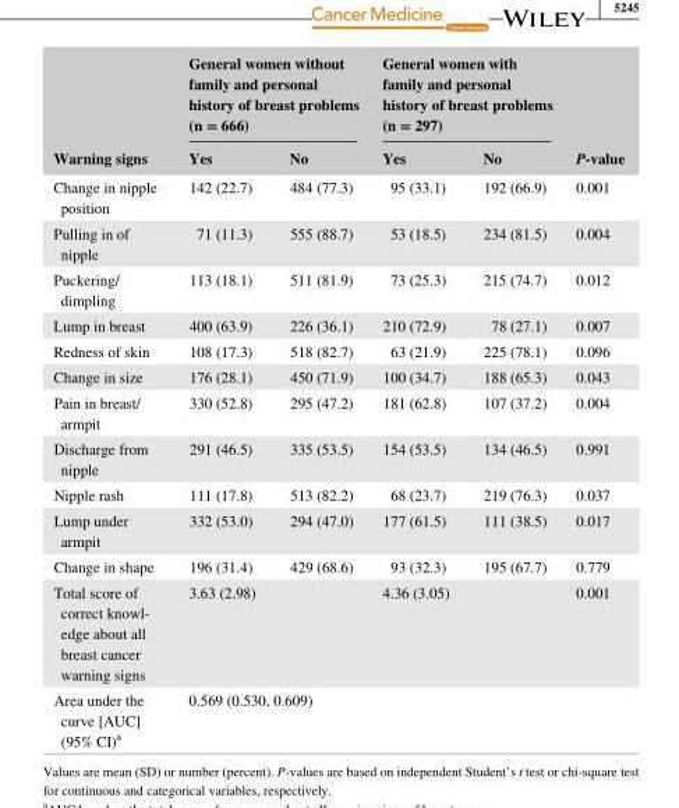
<table><thead><tr><td rowspan="2">Warning signs</td><td colspan="2">General women without family and personal history of breast problems (n = 666)</td><td colspan="2">General women with family and personal history of breast problems (n = 297)</td><td rowspan="2">P- value</td></tr><tr><td>Yes</td><td>No</td><td>Yes</td><td>No</td></tr></thead><tbody><tr><td>Change in nipple position</td><td>142 (22.7)</td><td>484 (77.3)</td><td>95 (33.1)</td><td>192 (66.9)</td><td>0.001</td></tr><tr><td>Pulling in of nipple</td><td>71 (11.3)</td><td>555 (88.7)</td><td>53 (18.5)</td><td>234 (81.5)</td><td>0.004</td></tr><tr><td>Puckering/ dimpling</td><td>113 (18.1)</td><td>511 (81.9)</td><td>73 (25.3)</td><td>215 (74.7)</td><td>0.012</td></tr><tr><td>Lump in breast</td><td>400 (63.9)</td><td>226 (36.1)</td><td>210 (72.9)</td><td>78 (27.1)</td><td>0.007</td></tr><tr><td>Redness of skin</td><td>108 (17.3)</td><td>518 (82.7)</td><td>63 (21.9)</td><td>225 (78.1)</td><td>0.096</td></tr><tr><td>Change in size</td><td>176 (28.1)</td><td>450 (71.9)</td><td>100 (34.7)</td><td>188 (65.3)</td><td>0.043</td></tr><tr><td>Pain in breast/ armpit</td><td>330 (52.8)</td><td>295 (47.2)</td><td>181 (62.8)</td><td>107 (37.2)</td><td>0.004</td></tr><tr><td>Discharge from nipple</td><td>291 (46.5)</td><td>335 (53.5)</td><td>154 (53.5)</td><td>134 (46.5)</td><td>0.991</td></tr><tr><td>Nipple rash</td><td>111 (17.8)</td><td>513 (82.2)</td><td>68 (23.7)</td><td>219 (76.3)</td><td>0.037</td></tr><tr><td>Lump under armpit</td><td>332 (53.0)</td><td>294 (47.0)</td><td>177 (61.5)</td><td>111 (38.5)</td><td>0.017</td></tr><tr><td>Change in shape</td><td>196 (31.4)</td><td>429 (68.6)</td><td>93 (32.3)</td><td>195 (67.7)</td><td>0.779</td></tr><tr><td>Total score of correct knowl- edge about all breast cancer warning signs</td><td colspan="2">3.63 (2.98)</td><td colspan="2">4.36 (3.05)</td><td>0.001</td></tr><tr><td>Area under the curve [AUC] (95% CI)<sup>a</sup></td><td colspan="4">0.569 (0.530, 0.609)</td><td></td></tr></tbody></table>